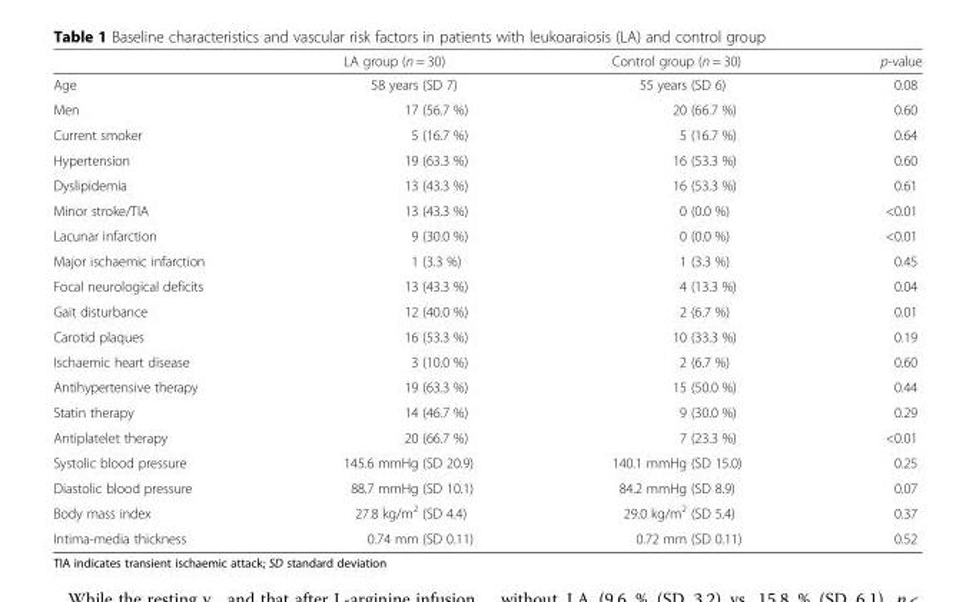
<table><thead><tr><td></td><td>LA group (n = 30)</td><td>Control group (n = 30)</td><td>p-value</td></tr></thead><tbody><tr><td>Age</td><td>58 years (SD 7)</td><td>55 years (SD 6)</td><td>0.08</td></tr><tr><td>Men</td><td>17 (56.7 %)</td><td>20 (66.7 %)</td><td>0.60</td></tr><tr><td>Current smoker</td><td>5 (16.7 %)</td><td>5 (16.7 %)</td><td>0.64</td></tr><tr><td>Hypertension</td><td>19 (63.3 %)</td><td>16 (53.3 %)</td><td>0.60</td></tr><tr><td>Dyslipidemia</td><td>13 (43.3 %)</td><td>16 (53.3 %)</td><td>0.61</td></tr><tr><td>Minor stroke/TIA</td><td>13 (43.3 %)</td><td>0 (0.0 %)</td><td>&lt;0.01</td></tr><tr><td>Lacunar infarction</td><td>9 (30.0 %)</td><td>0 (0.0 %)</td><td>&lt;0.01</td></tr><tr><td>Major ischaemic infarction</td><td>1 (3.3 %)</td><td>1 (3.3 %)</td><td>0.45</td></tr><tr><td>Focal neurological deficits</td><td>13 (43.3 %)</td><td>4 (13.3 %)</td><td>0.04</td></tr><tr><td>Gait disturbance</td><td>12 (40.0 %)</td><td>2 (6.7 %)</td><td>0.01</td></tr><tr><td>Carotid plaques</td><td>16 (53.3 %)</td><td>10 (33.3 %)</td><td>0.19</td></tr><tr><td>Ischaemic heart disease</td><td>3 (10.0 %)</td><td>2 (6.7 %)</td><td>0.60</td></tr><tr><td>Antihypertensive therapy</td><td>19 (63.3 %)</td><td>15 (50.0 %)</td><td>0.44</td></tr><tr><td>Statin therapy</td><td>14 (46.7 %)</td><td>9 (30.0 %)</td><td>0.29</td></tr><tr><td>Antiplatelet therapy</td><td>20 (66.7 %)</td><td>7 (23.3 %)</td><td>&lt;0.01</td></tr><tr><td>Systolic blood pressure</td><td>145.6 mmHg (SD 20.9)</td><td>140.1 mmHg (SD 15.0)</td><td>0.25</td></tr><tr><td>Diastolic blood pressure</td><td>88.7 mmHg (SD 10.1)</td><td>84.2 mmHg (SD 8.9)</td><td>0.07</td></tr><tr><td>Body mass index</td><td>27.8 kg/m<sup>2</sup> (SD 4.4)</td><td>29.0 kg/m<sup>2</sup> (SD 5.4)</td><td>0.37</td></tr><tr><td>Intima-media thickness</td><td>0.74 mm (SD 0.11)</td><td>0.72 mm (SD 0.11)</td><td>0.52</td></tr></tbody></table>